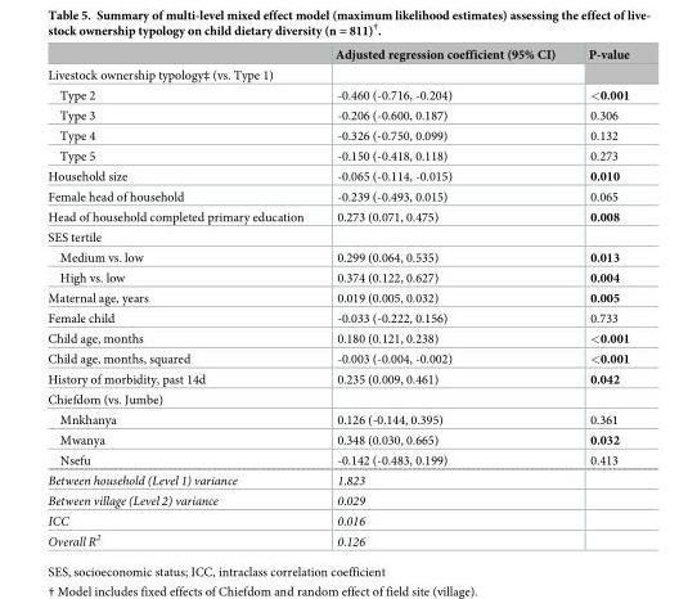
<table><thead><tr><td></td><td>Adjusted regression coefficient (95% CI)</td><td>P-value</td></tr></thead><tbody><tr><td colspan="3">Livestock ownership typology‡ (vs. Type 1)</td></tr><tr><td>Type 2</td><td>-0.460 (-0.716, -0.204)</td><td>&lt;0.001</td></tr><tr><td>Type 3</td><td>-0.206 (-0.600, 0.187)</td><td>0.306</td></tr><tr><td>Type 4</td><td>-0.326 (-0.750, 0.099)</td><td>0.132</td></tr><tr><td>Type 5</td><td>-0.150 (-0.418, 0.118)</td><td>0.273</td></tr><tr><td>Household size</td><td>-0.065 (-0.114, -0.015)</td><td>0.010</td></tr><tr><td>Female head of household</td><td>-0.239 (-0.493, 0.015)</td><td>0.065</td></tr><tr><td>Head of household completed primary education</td><td>0.273 (0.071, 0.475)</td><td>0.008</td></tr><tr><td colspan="3">SES tertile</td></tr><tr><td>Medium vs. low</td><td>0.299 (0.064, 0.535)</td><td>0.013</td></tr><tr><td>High vs. low</td><td>0.374 (0.122, 0.627)</td><td>0.004</td></tr><tr><td>Maternal age, years</td><td>0.019 (0.005, 0.032)</td><td>0.005</td></tr><tr><td>Female child</td><td>-0.033 (-0.222, 0.156)</td><td>0.733</td></tr><tr><td>Child age, months</td><td>0.180 (0.121, 0.238)</td><td>&lt;0.001</td></tr><tr><td>Child age, months, squared</td><td>-0.003 (-0.004, -0.002)</td><td>&lt;0.001</td></tr><tr><td>History of morbidity, past 14d</td><td>0.235 (0.009, 0.461)</td><td>0.042</td></tr><tr><td colspan="3">Chiefdom (vs. Jumbe)</td></tr><tr><td>Mnkhanya</td><td>0.126 (-0.144, 0.395)</td><td>0.361</td></tr><tr><td>Mwanya</td><td>0.348 (0.030, 0.665)</td><td>0.032</td></tr><tr><td>Nsefu</td><td>-0.142 (-0.483, 0.199)</td><td>0.413</td></tr><tr><td>Between household (Level 1) variance</td><td>1.823</td><td></td></tr><tr><td>Between village (Level 2) variance</td><td>0.029</td><td></td></tr><tr><td>ICC</td><td>0.016</td><td></td></tr><tr><td>Overall R<sup>2</sup></td><td>0.126</td><td></td></tr></tbody></table>